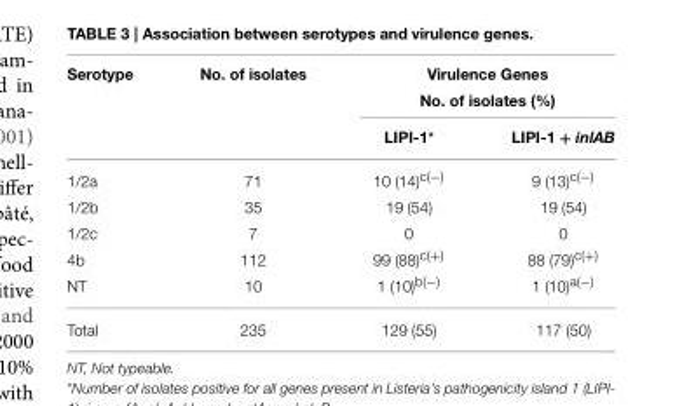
<table><thead><tr><td rowspan="2">Serotype</td><td rowspan="2">No. of isolates</td><td colspan="2">Virulence Genes No. of isolates (%)</td></tr><tr><td>LIPI-1*</td><td>LIPI-1 + inlAB</td></tr></thead><tbody><tr><td>1/2a</td><td>71</td><td>10 (14)<sup>c(−)</sup></td><td>9 (13)<sup>c(−)</sup></td></tr><tr><td>1/2b</td><td>35</td><td>19 (54)</td><td>19 (54)</td></tr><tr><td>1/2c</td><td>7</td><td>0</td><td>0</td></tr><tr><td>4b</td><td>112</td><td>99 (88)<sup>c(+)</sup></td><td>88 (79)<sup>c(+)</sup></td></tr><tr><td>NT</td><td>10</td><td>1 (10)<sup>b(−)</sup></td><td>1 (10)<sup>a(−)</sup></td></tr><tr><td>Total</td><td>235</td><td>129 (55)</td><td>117 (50)</td></tr></tbody></table>